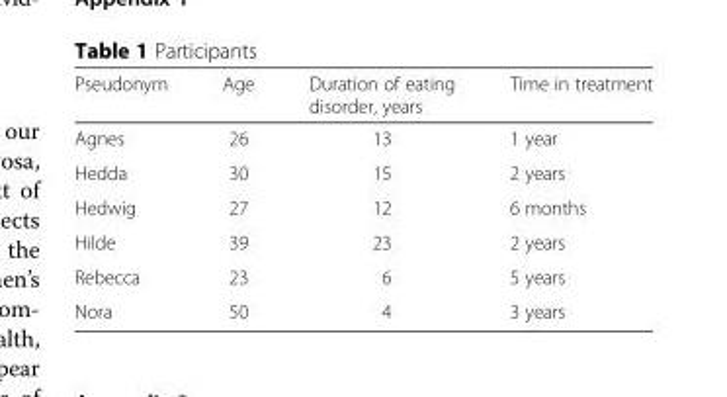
<table><thead><tr><td>Pseudonym</td><td>Age</td><td>Duration of eating disorder, years</td><td>Time in treatment</td></tr></thead><tbody><tr><td>Agnes</td><td>26</td><td>13</td><td>1 year</td></tr><tr><td>Hedda</td><td>30</td><td>15</td><td>2 years</td></tr><tr><td>Hedwig</td><td>27</td><td>12</td><td>6 months</td></tr><tr><td>Hilde</td><td>39</td><td>23</td><td>2 years</td></tr><tr><td>Rebecca</td><td>23</td><td>6</td><td>5 years</td></tr><tr><td>Nora</td><td>50</td><td>4</td><td>3 years</td></tr></tbody></table>